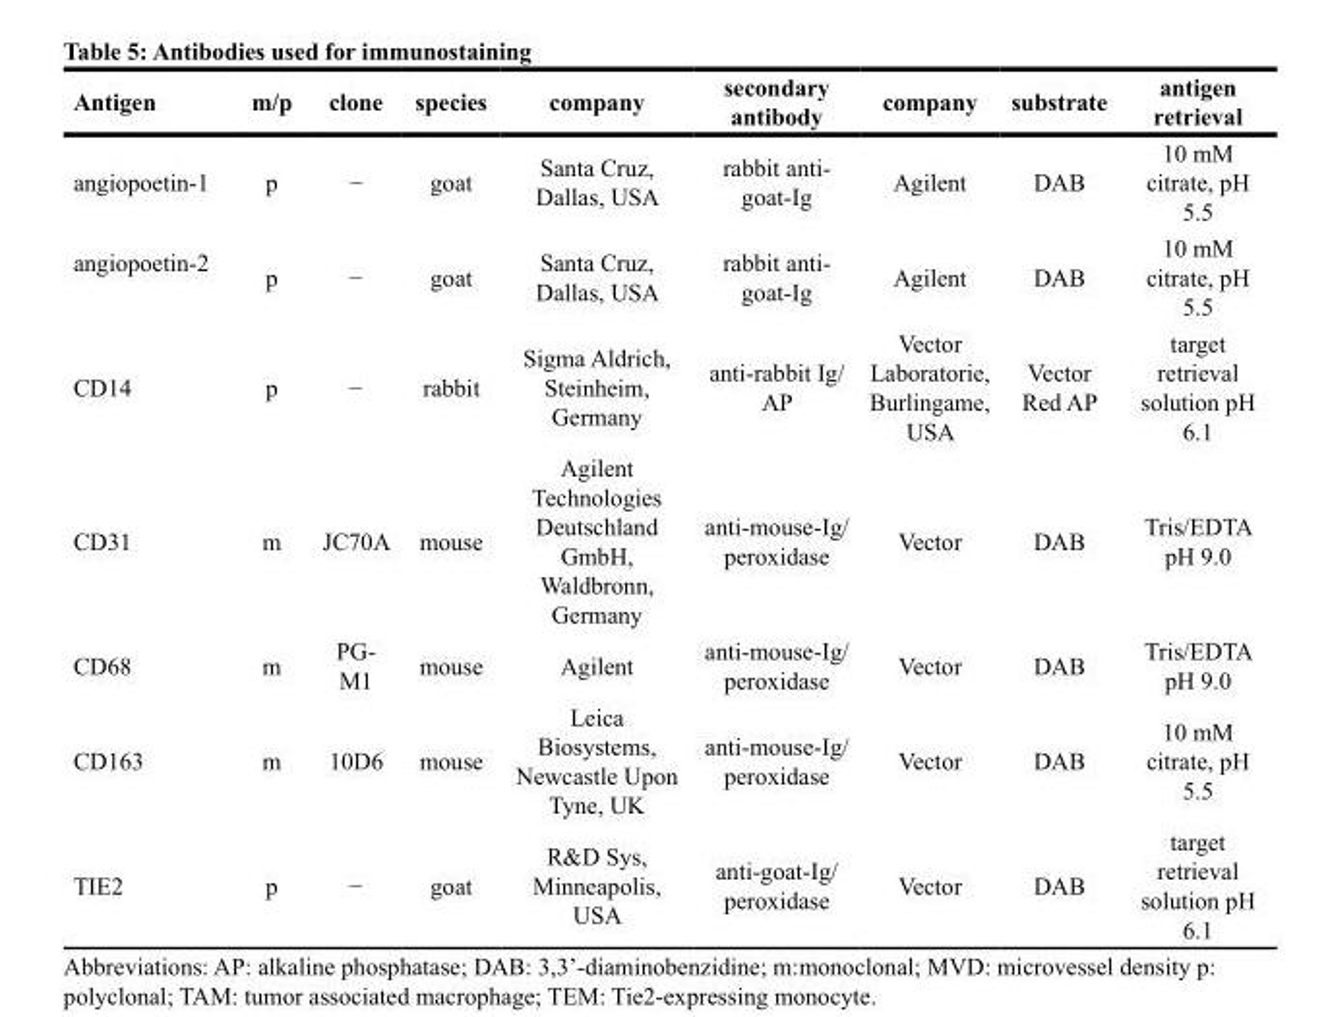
<table><thead><tr><td>Antigen</td><td>m/p</td><td>clone</td><td>species</td><td>company</td><td>secondary antibody</td><td>company</td><td>substrate</td><td>antigen retrieval</td></tr></thead><tbody><tr><td>angiopoetin-1</td><td>p</td><td>−</td><td>goat</td><td>Santa Cruz, Dallas, USA</td><td>rabbit anti- goat-Ig</td><td>Agilent</td><td>DAB</td><td>10 mM citrate, pH 5.5</td></tr><tr><td>angiopoetin-2</td><td>p</td><td>−</td><td>goat</td><td>Santa Cruz, Dallas, USA</td><td>rabbit anti- goat-Ig</td><td>Agilent</td><td>DAB</td><td>10 mM citrate, pH 5.5</td></tr><tr><td>CD14</td><td>p</td><td>−</td><td>rabbit</td><td>Sigma Aldrich, Steinheim, Germany</td><td>anti-rabbit Ig/ AP</td><td>Vector Laboratorie, Burlingame, USA</td><td>Vector Red AP</td><td>target retrieval solution pH 6.1</td></tr><tr><td>CD31</td><td>m</td><td>JC70A</td><td>mouse</td><td>Agilent Technologies Deutschland GmbH, Waldbronn, Germany</td><td>anti-mouse-Ig/ peroxidase</td><td>Vector</td><td>DAB</td><td>Tris/EDTA pH 9.0</td></tr><tr><td>CD68</td><td>m</td><td>PG- M1</td><td>mouse</td><td>Agilent</td><td>anti-mouse-Ig/ peroxidase</td><td>Vector</td><td>DAB</td><td>Tris/EDTA pH 9.0</td></tr><tr><td>CD163</td><td>m</td><td>10D6</td><td>mouse</td><td>Leica Biosystems, Newcastle Upon Tyne, UK</td><td>anti-mouse-Ig/ peroxidase</td><td>Vector</td><td>DAB</td><td>10 mM citrate, pH 5.5</td></tr><tr><td>TIE2</td><td>p</td><td>−</td><td>goat</td><td>R&amp;D Sys, Minneapolis, USA</td><td>anti-goat-Ig/ peroxidase</td><td>Vector</td><td>DAB</td><td>target retrieval solution pH 6.1</td></tr></tbody></table>